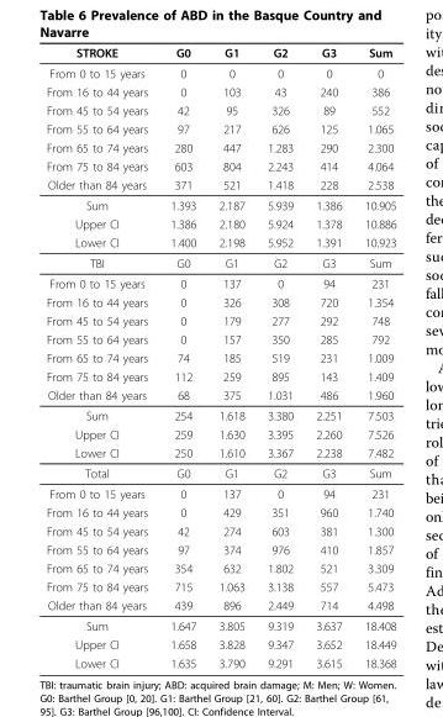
<table><thead><tr><td>STROKE</td><td>G0</td><td>G1</td><td>G2</td><td>G3</td><td>Sum</td></tr></thead><tbody><tr><td>From 0 to 15 years</td><td>0</td><td>0</td><td>0</td><td>0</td><td>0</td></tr><tr><td>From 16 to 44 years</td><td>0</td><td>103</td><td>43</td><td>240</td><td>386</td></tr><tr><td>From 45 to 54 years</td><td>42</td><td>95</td><td>326</td><td>89</td><td>552</td></tr><tr><td>From 55 to 64 years</td><td>97</td><td>217</td><td>626</td><td>125</td><td>1.065</td></tr><tr><td>From 65 to 74 years</td><td>280</td><td>447</td><td>1.283</td><td>290</td><td>2.300</td></tr><tr><td>From 75 to 84 years</td><td>603</td><td>804</td><td>2.243</td><td>414</td><td>4.064</td></tr><tr><td>Older than 84 years</td><td>371</td><td>521</td><td>1.418</td><td>228</td><td>2.538</td></tr><tr><td>Sum</td><td>1.393</td><td>2.187</td><td>5.939</td><td>1.386</td><td>10.905</td></tr><tr><td>Upper CI</td><td>1.386</td><td>2.180</td><td>5.924</td><td>1.378</td><td>10.886</td></tr><tr><td>Lower CI</td><td>1.400</td><td>2.198</td><td>5.952</td><td>1.391</td><td>10.923</td></tr><tr><td>TBI</td><td>G0</td><td>G1</td><td>G2</td><td>G3</td><td>Sum</td></tr><tr><td>From 0 to 15 years</td><td>0</td><td>137</td><td>0</td><td>94</td><td>231</td></tr><tr><td>From 16 to 44 years</td><td>0</td><td>326</td><td>308</td><td>720</td><td>1.354</td></tr><tr><td>From 45 to 54 years</td><td>0</td><td>179</td><td>277</td><td>292</td><td>748</td></tr><tr><td>From 55 to 64 years</td><td>0</td><td>157</td><td>350</td><td>285</td><td>792</td></tr><tr><td>From 65 to 74 years</td><td>74</td><td>185</td><td>519</td><td>231</td><td>1.009</td></tr><tr><td>From 75 to 84 years</td><td>112</td><td>259</td><td>895</td><td>143</td><td>1.409</td></tr><tr><td>Older than 84 years</td><td>68</td><td>375</td><td>1.031</td><td>486</td><td>1.960</td></tr><tr><td>Sum</td><td>254</td><td>1.618</td><td>3.380</td><td>2.251</td><td>7.503</td></tr><tr><td>Upper CI</td><td>259</td><td>1.630</td><td>3.395</td><td>2.260</td><td>7.526</td></tr><tr><td>Lower CI</td><td>250</td><td>1.610</td><td>3.367</td><td>2.238</td><td>7.482</td></tr><tr><td>Total</td><td>G0</td><td>G1</td><td>G2</td><td>G3</td><td>Sum</td></tr><tr><td>From 0 to 15 years</td><td>0</td><td>137</td><td>0</td><td>94</td><td>231</td></tr><tr><td>From 16 to 44 years</td><td>0</td><td>429</td><td>351</td><td>960</td><td>1.740</td></tr><tr><td>From 45 to 54 years</td><td>42</td><td>274</td><td>603</td><td>381</td><td>1.300</td></tr><tr><td>From 55 to 64 years</td><td>97</td><td>374</td><td>976</td><td>410</td><td>1.857</td></tr><tr><td>From 65 to 74 years</td><td>354</td><td>632</td><td>1.802</td><td>521</td><td>3.309</td></tr><tr><td>From 75 to 84 years</td><td>715</td><td>1.063</td><td>3.138</td><td>557</td><td>5.473</td></tr><tr><td>Older than 84 years</td><td>439</td><td>896</td><td>2.449</td><td>714</td><td>4.498</td></tr><tr><td>Sum</td><td>1.647</td><td>3.805</td><td>9.319</td><td>3.637</td><td>18.408</td></tr><tr><td>Upper CI</td><td>1.658</td><td>3.828</td><td>9.347</td><td>3.652</td><td>18.449</td></tr><tr><td>Lower CI</td><td>1.635</td><td>3.790</td><td>9.291</td><td>3.615</td><td>18.368</td></tr></tbody></table>